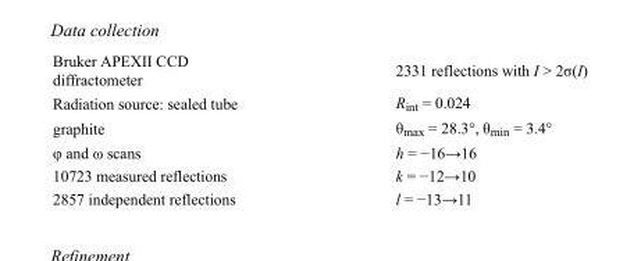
<table><tbody><tr><td>Bruker APEXII CCD diffractometer</td><td>2331 reflections with I &gt; 2σ(I)</td></tr><tr><td>Radiation source: sealed tube</td><td>R<sub>int</sub> = 0.024</td></tr><tr><td>graphite</td><td>θ<sub>max</sub> = 28.3°, θ<sub>min</sub> = 3.4°</td></tr><tr><td>φ and ω scans</td><td>h = −16→16</td></tr><tr><td>10723 measured reflections</td><td>k = −12→10</td></tr><tr><td>2857 independent reflections</td><td>l = −13→11</td></tr></tbody></table>